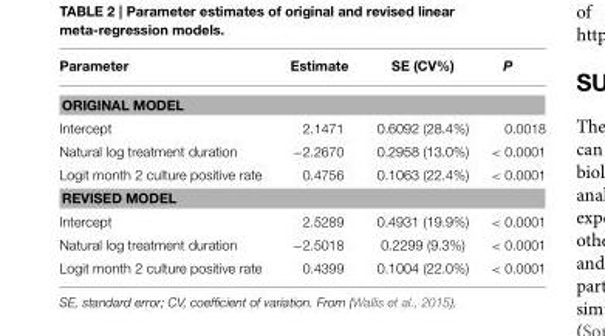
<table><thead><tr><td>Parameter</td><td>Estimate</td><td>SE (CV%)</td><td>P</td></tr></thead><tbody><tr><td colspan="4">ORIGINAL MODEL</td></tr><tr><td>Intercept</td><td>2.1471</td><td>0.6092 (28.4%)</td><td>0.0018</td></tr><tr><td>Natural log treatment duration</td><td>−2.2670</td><td>0.2958 (13.0%)</td><td>&lt; 0.0001</td></tr><tr><td>Logit month 2 culture positive rate</td><td>0.4756</td><td>0.1063 (22.4%)</td><td>&lt; 0.0001</td></tr><tr><td colspan="4">REVISED MODEL</td></tr><tr><td>Intercept</td><td>2.5289</td><td>0.4931 (19.9%)</td><td>&lt; 0.0001</td></tr><tr><td>Natural log treatment duration</td><td>−2.5018</td><td>0.2299 (9.3%)</td><td>&lt; 0.0001</td></tr><tr><td>Logit month 2 culture positive rate</td><td>0.4399</td><td>0.1004 (22.0%)</td><td>&lt; 0.0001</td></tr></tbody></table>